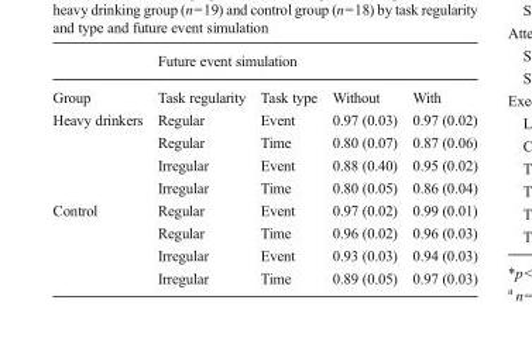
<table><thead><tr><td rowspan="2">Group</td><td colspan="4">Future event simulation</td></tr><tr><td>Task regularity</td><td>Task type</td><td>Without</td><td>With</td></tr></thead><tbody><tr><td rowspan="4">Heavy drinkers</td><td>Regular</td><td>Event</td><td>0.97 (0.03)</td><td>0.97 (0.02)</td></tr><tr><td>Regular</td><td>Time</td><td>0.80 (0.07)</td><td>0.87 (0.06)</td></tr><tr><td>Irregular</td><td>Event</td><td>0.88 (0.40)</td><td>0.95 (0.02)</td></tr><tr><td>Irregular</td><td>Time</td><td>0.80 (0.05)</td><td>0.86 (0.04)</td></tr><tr><td rowspan="4">Control</td><td>Regular</td><td>Event</td><td>0.97 (0.02)</td><td>0.99 (0.01)</td></tr><tr><td>Regular</td><td>Time</td><td>0.96 (0.02)</td><td>0.96 (0.03)</td></tr><tr><td>Irregular</td><td>Event</td><td>0.93 (0.03)</td><td>0.94 (0.03)</td></tr><tr><td>Irregular</td><td>Time</td><td>0.89 (0.05)</td><td>0.97 (0.03)</td></tr></tbody></table>